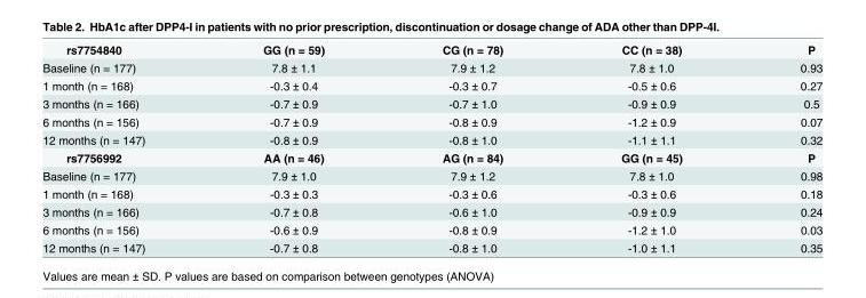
<table><tbody><tr><td>rs7754840</td><td>GG (n = 59)</td><td>CG (n = 78)</td><td>CC (n = 38)</td><td>P</td></tr><tr><td>Baseline (n = 177)</td><td>7.8 ± 1.1</td><td>7.9 ± 1.2</td><td>7.8 ± 1.0</td><td>0.93</td></tr><tr><td>1 month (n = 168)</td><td>-0.3 ± 0.4</td><td>-0.3 ± 0.7</td><td>-0.5 ± 0.6</td><td>0.27</td></tr><tr><td>3 months (n = 166)</td><td>-0.7 ± 0.9</td><td>-0.7 ± 1.0</td><td>-0.9 ± 0.9</td><td>0.5</td></tr><tr><td>6 months (n = 156)</td><td>-0.7 ± 0.9</td><td>-0.8 ± 0.9</td><td>-1.2 ± 0.9</td><td>0.07</td></tr><tr><td>12 months (n = 147)</td><td>-0.8 ± 0.9</td><td>-0.8 ± 1.0</td><td>-1.1 ± 1.1</td><td>0.32</td></tr><tr><td>rs7756992</td><td>AA (n = 46)</td><td>AG (n = 84)</td><td>GG (n = 45)</td><td>P</td></tr><tr><td>Baseline (n = 177)</td><td>7.9 ± 1.0</td><td>7.9 ± 1.2</td><td>7.8 ± 1.0</td><td>0.98</td></tr><tr><td>1 month (n = 168)</td><td>-0.3 ± 0.3</td><td>-0.3 ± 0.6</td><td>-0.3 ± 0.6</td><td>0.18</td></tr><tr><td>3 months (n = 166)</td><td>-0.7 ± 0.8</td><td>-0.6 ± 1.0</td><td>-0.9 ± 0.9</td><td>0.24</td></tr><tr><td>6 months (n = 156)</td><td>-0.6 ± 0.9</td><td>-0.8 ± 0.9</td><td>-1.2 ± 1.0</td><td>0.03</td></tr><tr><td>12 months (n = 147)</td><td>-0.7 ± 0.8</td><td>-0.8 ± 1.0</td><td>-1.0 ± 1.1</td><td>0.35</td></tr></tbody></table>